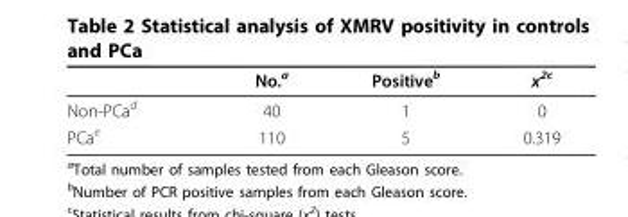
<table><thead><tr><td></td><td>No.<sup>a</sup></td><td>Positive<sup>b</sup></td><td>x<sup>2c</sup></td></tr></thead><tbody><tr><td>Non-PCa<sup>d</sup></td><td>40</td><td>1</td><td>0</td></tr><tr><td>PCa<sup>e</sup></td><td>110</td><td>5</td><td>0.319</td></tr></tbody></table>